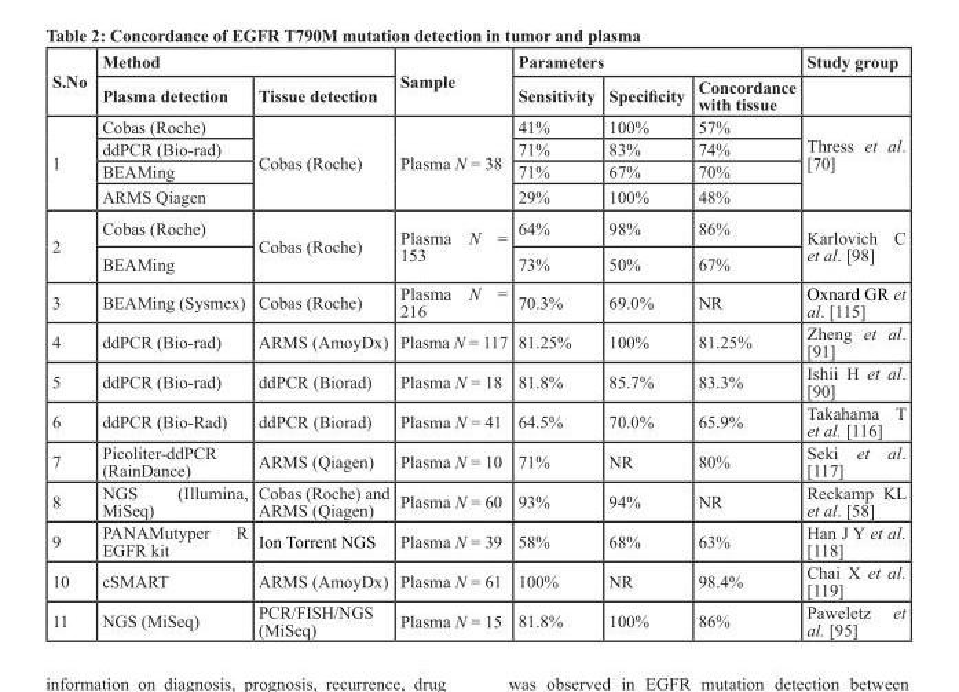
<table><thead><tr><td rowspan="2">S.No</td><td colspan="2">Method</td><td rowspan="2">Sample</td><td colspan="3">Parameters</td><td rowspan="2">Study group</td></tr><tr><td>Plasma detection</td><td>Tissue detection</td><td>Sensitivity</td><td>Specificity</td><td>Concordance with tissue</td></tr></thead><tbody><tr><td rowspan="4">1</td><td>Cobas (Roche)</td><td rowspan="4">Cobas (Roche)</td><td rowspan="4">Plasma N = 38</td><td>41%</td><td>100%</td><td>57%</td><td rowspan="4">Thress et al. [70]</td></tr><tr><td>ddPCR (Bio-rad)</td><td>71%</td><td>83%</td><td>74%</td></tr><tr><td>BEAMing</td><td>71%</td><td>67%</td><td>70%</td></tr><tr><td>ARMS Qiagen</td><td>29%</td><td>100%</td><td>48%</td></tr><tr><td rowspan="2">2</td><td>Cobas (Roche)</td><td rowspan="2">Cobas (Roche)</td><td rowspan="2">Plasma N = 153</td><td>64%</td><td>98%</td><td>86%</td><td rowspan="2">Karlovich C et al. [98]</td></tr><tr><td>BEAMing</td><td>73%</td><td>50%</td><td>67%</td></tr><tr><td>3</td><td>BEAMing (Sysmex)</td><td>Cobas (Roche)</td><td>Plasma N = 216</td><td>70.3%</td><td>69.0%</td><td>NR</td><td>Oxnard GR et al. [115]</td></tr><tr><td>4</td><td>ddPCR (Bio-rad)</td><td>ARMS (AmoyDx)</td><td>Plasma N = 117</td><td>81.25%</td><td>100%</td><td>81.25%</td><td>Zheng et al. [91]</td></tr><tr><td>5</td><td>ddPCR (Bio-rad)</td><td>ddPCR (Biorad)</td><td>Plasma N = 18</td><td>81.8%</td><td>85.7%</td><td>83.3%</td><td>Ishii H et al. [90]</td></tr><tr><td>6</td><td>ddPCR (Bio-Rad)</td><td>ddPCR (Biorad)</td><td>Plasma N = 41</td><td>64.5%</td><td>70.0%</td><td>65.9%</td><td>Takahama T et al. [116]</td></tr><tr><td>7</td><td>Picoliter-ddPCR (RainDance)</td><td>ARMS (Qiagen)</td><td>Plasma N = 10</td><td>71%</td><td>NR</td><td>80%</td><td>Seki et al. [117]</td></tr><tr><td>8</td><td>NGS (Illumina, MiSeq)</td><td>Cobas (Roche) and ARMS (Qiagen)</td><td>Plasma N = 60</td><td>93%</td><td>94%</td><td>NR</td><td>Reckamp KL et al. [58]</td></tr><tr><td>9</td><td>PANAMutyper R EGFR kit</td><td>Ion Torrent NGS</td><td>Plasma N = 39</td><td>58%</td><td>68%</td><td>63%</td><td>Han J Y et al. [118]</td></tr><tr><td>10</td><td>cSMART</td><td>ARMS (AmoyDx)</td><td>Plasma N = 61</td><td>100%</td><td>NR</td><td>98.4%</td><td>Chai X et al. [119]</td></tr><tr><td>11</td><td>NGS (MiSeq)</td><td>PCR/FISH/NGS (MiSeq)</td><td>Plasma N = 15</td><td>81.8%</td><td>100%</td><td>86%</td><td>Paweletz et al. [95]</td></tr></tbody></table>